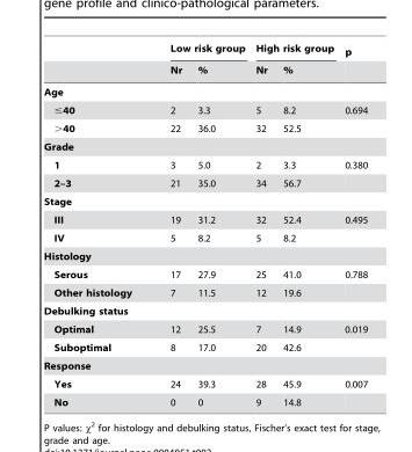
<table><thead><tr><td rowspan="2"></td><td colspan="2">Low risk group</td><td colspan="2">High risk group</td><td rowspan="2">p</td></tr><tr><td>Nr</td><td>%</td><td>Nr</td><td>%</td></tr></thead><tbody><tr><td colspan="6">Age</td></tr><tr><td>≤40</td><td>2</td><td>3.3</td><td>5</td><td>8.2</td><td>0.694</td></tr><tr><td>&gt;40</td><td>22</td><td>36.0</td><td>32</td><td>52.5</td><td></td></tr><tr><td colspan="6">Grade</td></tr><tr><td>1</td><td>3</td><td>5.0</td><td>2</td><td>3.3</td><td>0.380</td></tr><tr><td>2–3</td><td>21</td><td>35.0</td><td>34</td><td>56.7</td><td></td></tr><tr><td colspan="6">Stage</td></tr><tr><td>III</td><td>19</td><td>31.2</td><td>32</td><td>52.4</td><td>0.495</td></tr><tr><td>IV</td><td>5</td><td>8.2</td><td>5</td><td>8.2</td><td></td></tr><tr><td colspan="6">Histology</td></tr><tr><td>Serous</td><td>17</td><td>27.9</td><td>25</td><td>41.0</td><td>0.788</td></tr><tr><td>Other histology</td><td>7</td><td>11.5</td><td>12</td><td>19.6</td><td></td></tr><tr><td colspan="6">Debulking status</td></tr><tr><td>Optimal</td><td>12</td><td>25.5</td><td>7</td><td>14.9</td><td>0.019</td></tr><tr><td>Suboptimal</td><td>8</td><td>17.0</td><td>20</td><td>42.6</td><td></td></tr><tr><td colspan="6">Response</td></tr><tr><td>Yes</td><td>24</td><td>39.3</td><td>28</td><td>45.9</td><td>0.007</td></tr><tr><td>No</td><td>0</td><td>0</td><td>9</td><td>14.8</td><td></td></tr></tbody></table>